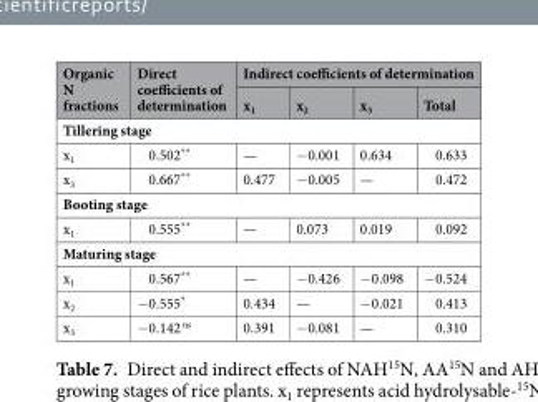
<table><thead><tr><td rowspan="2">Organic N fractions</td><td rowspan="2">Direct coefficients of determination</td><td colspan="4">Indirect coefficients of determination</td></tr><tr><td>x<sub>1</sub></td><td>x<sub>2</sub></td><td>x<sub>3</sub></td><td>Total</td></tr></thead><tbody><tr><td colspan="6">Tillering stage</td></tr><tr><td>x<sub>1</sub></td><td>0.502**</td><td>—</td><td>−0.001</td><td>0.634</td><td>0.633</td></tr><tr><td>x<sub>3</sub></td><td>0.667**</td><td>0.477</td><td>−0.005</td><td>—</td><td>0.472</td></tr><tr><td colspan="6">Booting stage</td></tr><tr><td>x<sub>1</sub></td><td>0.555**</td><td>—</td><td>0.073</td><td>0.019</td><td>0.092</td></tr><tr><td colspan="6">Maturing stage</td></tr><tr><td>x<sub>1</sub></td><td>0.567**</td><td>—</td><td>−0.426</td><td>−0.098</td><td>−0.524</td></tr><tr><td>x<sub>2</sub></td><td>−0.555*</td><td>0.434</td><td>—</td><td>−0.021</td><td>0.413</td></tr><tr><td>x<sub>3</sub></td><td>−0.142 <sup>ns</sup></td><td>0.391</td><td>−0.081</td><td>—</td><td>0.310</td></tr></tbody></table>